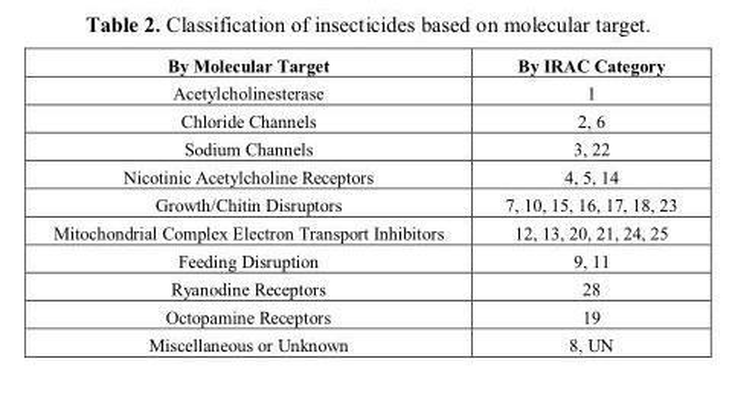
<table><thead><tr><td>By Molecular Target</td><td>By IRAC Category</td></tr></thead><tbody><tr><td>Acetylcholinesterase</td><td>1</td></tr><tr><td>Chloride Channels</td><td>2, 6</td></tr><tr><td>Sodium Channels</td><td>3, 22</td></tr><tr><td>Nicotinic Acetylcholine Receptors</td><td>4, 5, 14</td></tr><tr><td>Growth/Chitin Disruptors</td><td>7, 10, 15, 16, 17, 18, 23</td></tr><tr><td>Mitochondrial Complex Electron Transport Inhibitors</td><td>12, 13, 20, 21, 24, 25</td></tr><tr><td>Feeding Disruption</td><td>9, 11</td></tr><tr><td>Ryanodine Receptors</td><td>28</td></tr><tr><td>Octopamine Receptors</td><td>19</td></tr><tr><td>Miscellaneous or Unknown</td><td>8, UN</td></tr></tbody></table>